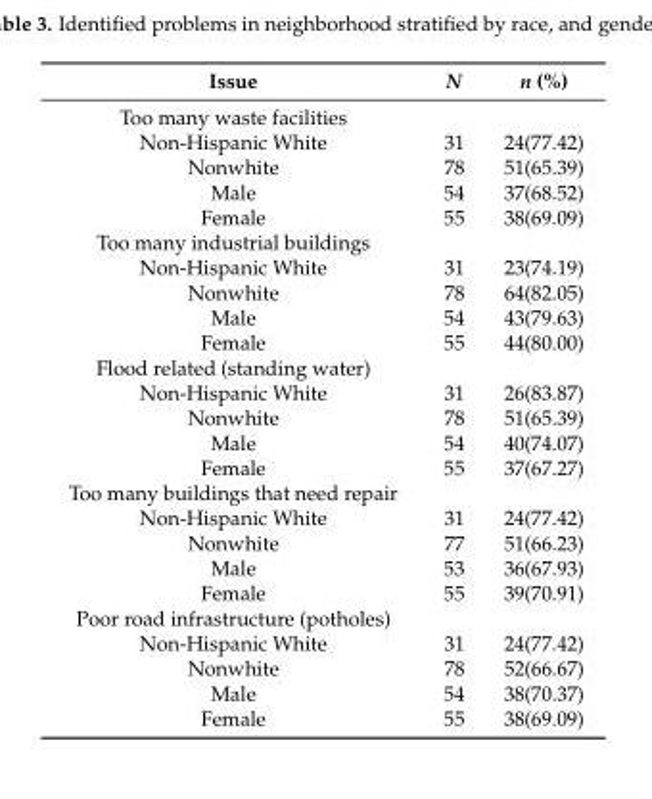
<table><thead><tr><td>Issue</td><td>N</td><td>n (%)</td></tr></thead><tbody><tr><td colspan="3">Too many waste facilities</td></tr><tr><td>Non-Hispanic White</td><td>31</td><td>24(77.42)</td></tr><tr><td>Nonwhite</td><td>78</td><td>51(65.39)</td></tr><tr><td>Male</td><td>54</td><td>37(68.52)</td></tr><tr><td>Female</td><td>55</td><td>38(69.09)</td></tr><tr><td colspan="3">Too many industrial buildings</td></tr><tr><td>Non-Hispanic White</td><td>31</td><td>23(74.19)</td></tr><tr><td>Nonwhite</td><td>78</td><td>64(82.05)</td></tr><tr><td>Male</td><td>54</td><td>43(79.63)</td></tr><tr><td>Female</td><td>55</td><td>44(80.00)</td></tr><tr><td colspan="3">Flood related (standing water)</td></tr><tr><td>Non-Hispanic White</td><td>31</td><td>26(83.87)</td></tr><tr><td>Nonwhite</td><td>78</td><td>51(65.39)</td></tr><tr><td>Male</td><td>54</td><td>40(74.07)</td></tr><tr><td>Female</td><td>55</td><td>37(67.27)</td></tr><tr><td colspan="3">Too many buildings that need repair</td></tr><tr><td>Non-Hispanic White</td><td>31</td><td>24(77.42)</td></tr><tr><td>Nonwhite</td><td>77</td><td>51(66.23)</td></tr><tr><td>Male</td><td>53</td><td>36(67.93)</td></tr><tr><td>Female</td><td>55</td><td>39(70.91)</td></tr><tr><td colspan="3">Poor road infrastructure (potholes)</td></tr><tr><td>Non-Hispanic White</td><td>31</td><td>24(77.42)</td></tr><tr><td>Nonwhite</td><td>78</td><td>52(66.67)</td></tr><tr><td>Male</td><td>54</td><td>38(70.37)</td></tr><tr><td>Female</td><td>55</td><td>38(69.09)</td></tr></tbody></table>